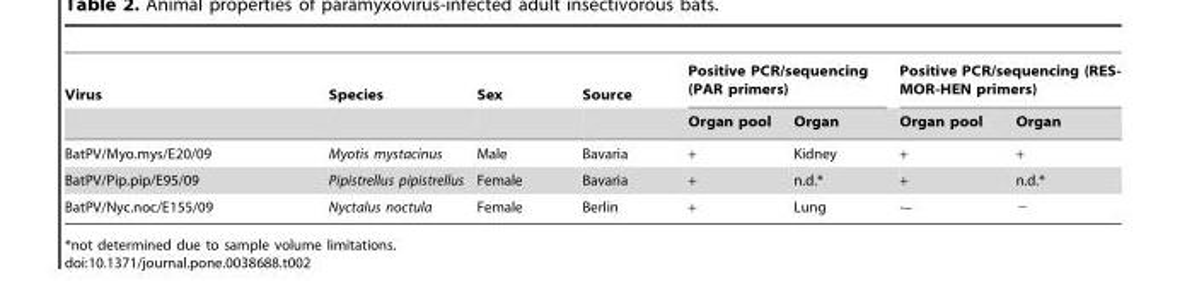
<table><thead><tr><td rowspan="2">Virus</td><td rowspan="2">Species</td><td rowspan="2">Sex</td><td rowspan="2">Source</td><td colspan="2">Positive PCR/sequencing (PAR primers)</td><td colspan="2">Positive PCR/sequencing (RES- MOR-HEN primers)</td></tr><tr><td>Organ pool</td><td>Organ</td><td>Organ pool</td><td>Organ</td></tr></thead><tbody><tr><td>BatPV/Myo.mys/E20/09</td><td>Myotis mystacinus</td><td>Male</td><td>Bavaria</td><td>+</td><td>Kidney</td><td>+</td><td>+</td></tr><tr><td>BatPV/Pip.pip/E95/09</td><td>Pipistrellus pipistrellus</td><td>Female</td><td>Bavaria</td><td>+</td><td>n.d.*</td><td>+</td><td>n.d.*</td></tr><tr><td>BatPV/Nyc.noc/E155/09</td><td>Nyctalus noctula</td><td>Female</td><td>Berlin</td><td>+</td><td>Lung</td><td>-–</td><td>−</td></tr></tbody></table>